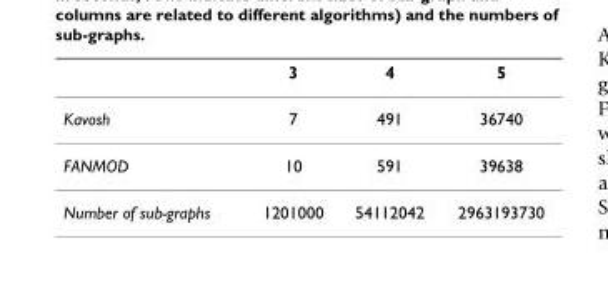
<table><thead><tr><td></td><td>3</td><td>4</td><td>5</td></tr></thead><tbody><tr><td>Kavosh</td><td>7</td><td>491</td><td>36740</td></tr><tr><td>FANMOD</td><td>10</td><td>591</td><td>39638</td></tr><tr><td>Number of sub-graphs</td><td>1201000</td><td>54112042</td><td>2963193730</td></tr></tbody></table>